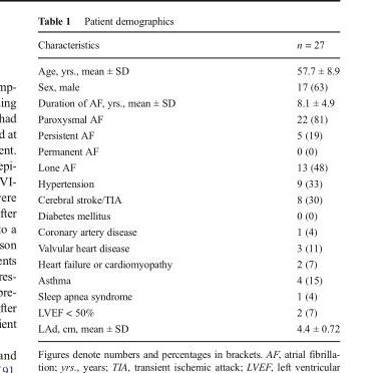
<table><thead><tr><td>Characteristics</td><td>n = 27</td></tr></thead><tbody><tr><td>Age, yrs., mean ± SD</td><td>57.7 ± 8.9</td></tr><tr><td>Sex, male</td><td>17 (63)</td></tr><tr><td>Duration of AF, yrs., mean ± SD</td><td>8.1 ± 4.9</td></tr><tr><td>Paroxysmal AF</td><td>22 (81)</td></tr><tr><td>Persistent AF</td><td>5 (19)</td></tr><tr><td>Permanent AF</td><td>0 (0)</td></tr><tr><td>Lone AF</td><td>13 (48)</td></tr><tr><td>Hypertension</td><td>9 (33)</td></tr><tr><td>Cerebral stroke/TIA</td><td>8 (30)</td></tr><tr><td>Diabetes mellitus</td><td>0 (0)</td></tr><tr><td>Coronary artery disease</td><td>1 (4)</td></tr><tr><td>Valvular heart disease</td><td>3 (11)</td></tr><tr><td>Heart failure or cardiomyopathy</td><td>2 (7)</td></tr><tr><td>Asthma</td><td>4 (15)</td></tr><tr><td>Sleep apnea syndrome</td><td>1 (4)</td></tr><tr><td>LVEF &lt; 50%</td><td>2 (7)</td></tr><tr><td>LAd, cm, mean ± SD</td><td>4.4 ± 0.72</td></tr></tbody></table>